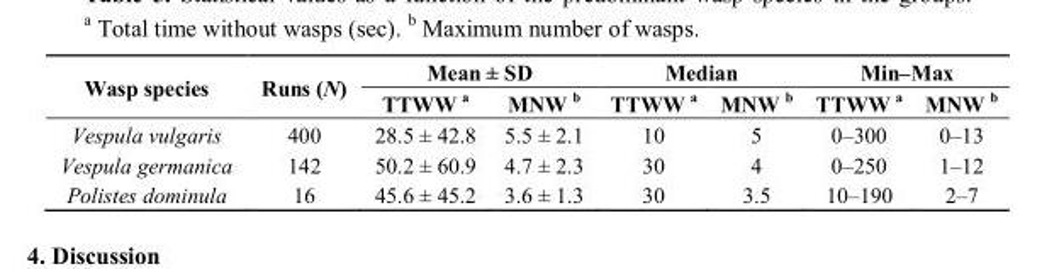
<table><thead><tr><td rowspan="2">Wasp species</td><td rowspan="2">Runs (N)</td><td colspan="2">Mean ± SD</td><td colspan="2">Median</td><td colspan="2">Min–Max</td></tr><tr><td>TTWW <sup>a</sup></td><td>MNW <sup>b</sup></td><td>TTWW <sup>a</sup></td><td>MNW <sup>b</sup></td><td>TTWW <sup>a</sup></td><td>MNW <sup>b</sup></td></tr></thead><tbody><tr><td>Vespula vulgaris</td><td>400</td><td>28.5 ± 42.8</td><td>5.5 ± 2.1</td><td>10</td><td>5</td><td>0–300</td><td>0–13</td></tr><tr><td>Vespula germanica</td><td>142</td><td>50.2 ± 60.9</td><td>4.7 ± 2.3</td><td>30</td><td>4</td><td>0–250</td><td>1–12</td></tr><tr><td>Polistes dominula</td><td>16</td><td>45.6 ± 45.2</td><td>3.6 ± 1.3</td><td>30</td><td>3.5</td><td>10–190</td><td>2–7</td></tr></tbody></table>